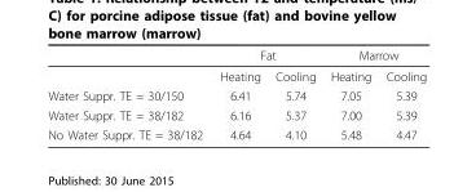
<table><thead><tr><td rowspan="2"></td><td colspan="2">Fat</td><td colspan="2">Marrow</td></tr><tr><td>Heating</td><td>Cooling</td><td>Heating</td><td>Cooling</td></tr></thead><tbody><tr><td>Water Suppr. TE = 30/150</td><td>6.41</td><td>5.74</td><td>7.05</td><td>5.39</td></tr><tr><td>Water Suppr. TE = 38/182</td><td>6.16</td><td>5.37</td><td>7.00</td><td>5.39</td></tr><tr><td>No Water Suppr. TE = 38/182</td><td>4.64</td><td>4.10</td><td>5.48</td><td>4.47</td></tr></tbody></table>